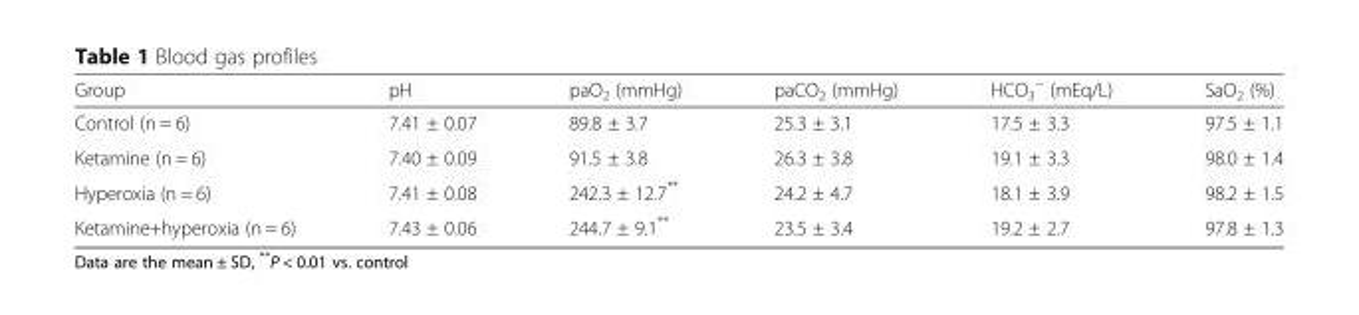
<table><thead><tr><td>Group</td><td>pH</td><td>paO<sub>2</sub> (mmHg)</td><td>paCO<sub>2</sub> (mmHg)</td><td>HCO<sub>3</sub> <sup>−</sup> (mEq/L)</td><td>SaO<sub>2</sub> (%)</td></tr></thead><tbody><tr><td>Control (n = 6)</td><td>7.41 ± 0.07</td><td>89.8 ± 3.7</td><td>25.3 ± 3.1</td><td>17.5 ± 3.3</td><td>97.5 ± 1.1</td></tr><tr><td>Ketamine (n = 6)</td><td>7.40 ± 0.09</td><td>91.5 ± 3.8</td><td>26.3 ± 3.8</td><td>19.1 ± 3.3</td><td>98.0 ± 1.4</td></tr><tr><td>Hyperoxia (n = 6)</td><td>7.41 ± 0.08</td><td>242.3 ± 12.7**</td><td>24.2 ± 4.7</td><td>18.1 ± 3.9</td><td>98.2 ± 1.5</td></tr><tr><td>Ketamine+hyperoxia (n = 6)</td><td>7.43 ± 0.06</td><td>244.7 ± 9.1**</td><td>23.5 ± 3.4</td><td>19.2 ± 2.7</td><td>97.8 ± 1.3</td></tr></tbody></table>